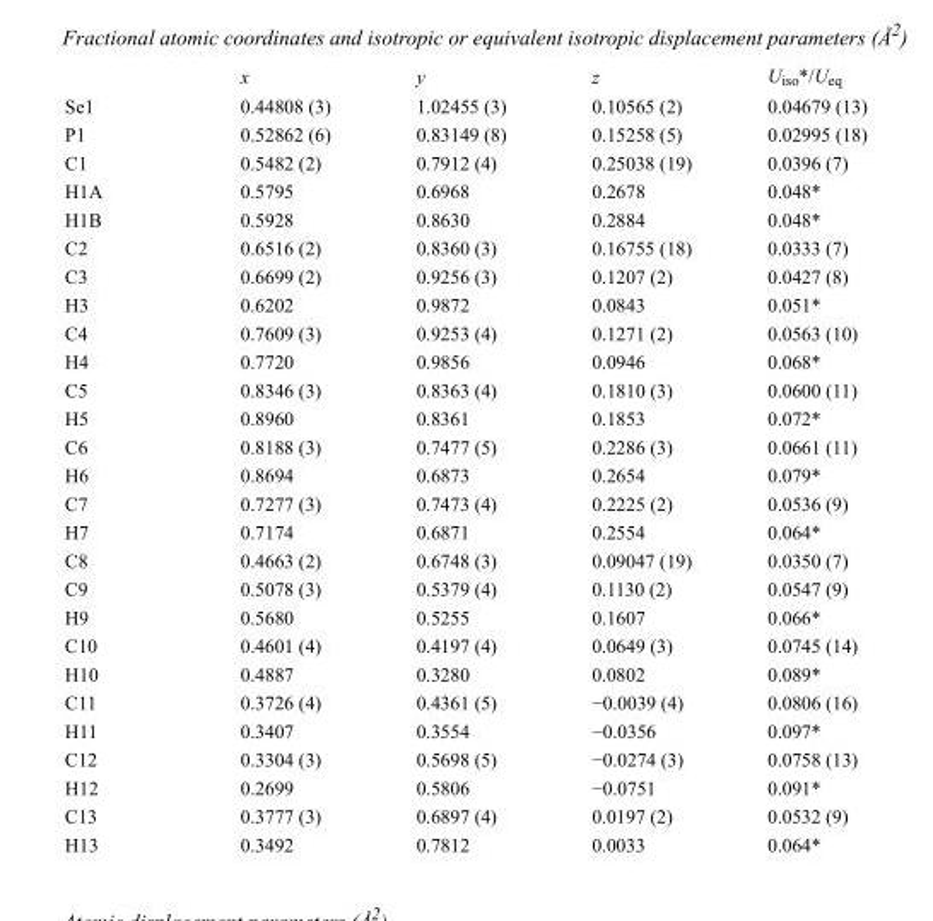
<table><thead><tr><td></td><td>x</td><td>y</td><td>z</td><td>U<sub>iso</sub>*/U<sub>eq</sub></td></tr></thead><tbody><tr><td>Se1</td><td>0.44808 (3)</td><td>1.02455 (3)</td><td>0.10565 (2)</td><td>0.04679 (13)</td></tr><tr><td>P1</td><td>0.52862 (6)</td><td>0.83149 (8)</td><td>0.15258 (5)</td><td>0.02995 (18)</td></tr><tr><td>C1</td><td>0.5482 (2)</td><td>0.7912 (4)</td><td>0.25038 (19)</td><td>0.0396 (7)</td></tr><tr><td>H1A</td><td>0.5795</td><td>0.6968</td><td>0.2678</td><td>0.048*</td></tr><tr><td>H1B</td><td>0.5928</td><td>0.8630</td><td>0.2884</td><td>0.048*</td></tr><tr><td>C2</td><td>0.6516 (2)</td><td>0.8360 (3)</td><td>0.16755 (18)</td><td>0.0333 (7)</td></tr><tr><td>C3</td><td>0.6699 (2)</td><td>0.9256 (3)</td><td>0.1207 (2)</td><td>0.0427 (8)</td></tr><tr><td>H3</td><td>0.6202</td><td>0.9872</td><td>0.0843</td><td>0.051*</td></tr><tr><td>C4</td><td>0.7609 (3)</td><td>0.9253 (4)</td><td>0.1271 (2)</td><td>0.0563 (10)</td></tr><tr><td>H4</td><td>0.7720</td><td>0.9856</td><td>0.0946</td><td>0.068*</td></tr><tr><td>C5</td><td>0.8346 (3)</td><td>0.8363 (4)</td><td>0.1810 (3)</td><td>0.0600 (11)</td></tr><tr><td>H5</td><td>0.8960</td><td>0.8361</td><td>0.1853</td><td>0.072*</td></tr><tr><td>C6</td><td>0.8188 (3)</td><td>0.7477 (5)</td><td>0.2286 (3)</td><td>0.0661 (11)</td></tr><tr><td>H6</td><td>0.8694</td><td>0.6873</td><td>0.2654</td><td>0.079*</td></tr><tr><td>C7</td><td>0.7277 (3)</td><td>0.7473 (4)</td><td>0.2225 (2)</td><td>0.0536 (9)</td></tr><tr><td>H7</td><td>0.7174</td><td>0.6871</td><td>0.2554</td><td>0.064*</td></tr><tr><td>C8</td><td>0.4663 (2)</td><td>0.6748 (3)</td><td>0.09047 (19)</td><td>0.0350 (7)</td></tr><tr><td>C9</td><td>0.5078 (3)</td><td>0.5379 (4)</td><td>0.1130 (2)</td><td>0.0547 (9)</td></tr><tr><td>H9</td><td>0.5680</td><td>0.5255</td><td>0.1607</td><td>0.066*</td></tr><tr><td>C10</td><td>0.4601 (4)</td><td>0.4197 (4)</td><td>0.0649 (3)</td><td>0.0745 (14)</td></tr><tr><td>H10</td><td>0.4887</td><td>0.3280</td><td>0.0802</td><td>0.089*</td></tr><tr><td>C11</td><td>0.3726 (4)</td><td>0.4361 (5)</td><td>−0.0039 (4)</td><td>0.0806 (16)</td></tr><tr><td>H11</td><td>0.3407</td><td>0.3554</td><td>−0.0356</td><td>0.097*</td></tr><tr><td>C12</td><td>0.3304 (3)</td><td>0.5698 (5)</td><td>−0.0274 (3)</td><td>0.0758 (13)</td></tr><tr><td>H12</td><td>0.2699</td><td>0.5806</td><td>−0.0751</td><td>0.091*</td></tr><tr><td>C13</td><td>0.3777 (3)</td><td>0.6897 (4)</td><td>0.0197 (2)</td><td>0.0532 (9)</td></tr><tr><td>H13</td><td>0.3492</td><td>0.7812</td><td>0.0033</td><td>0.064*</td></tr></tbody></table>